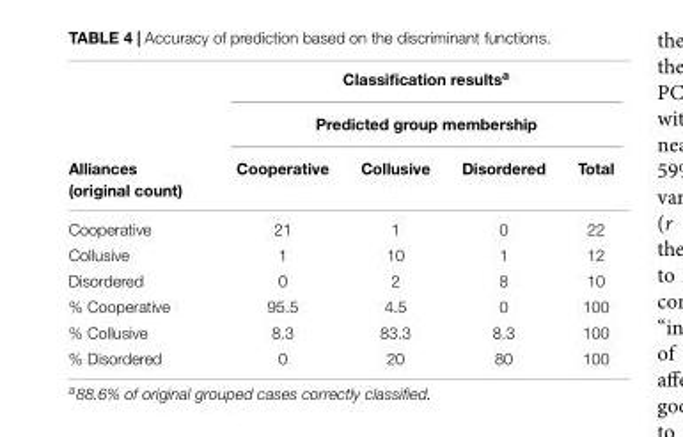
<table><thead><tr><td rowspan="3">Alliances (original count)</td><td rowspan="2" colspan="4">Classification results<sup>a</sup> Predicted group membership</td></tr><tr></tr><tr><td>Cooperative</td><td>Collusive</td><td>Disordered</td><td>Total</td></tr></thead><tbody><tr><td>Cooperative</td><td>21</td><td>1</td><td>0</td><td>22</td></tr><tr><td>Collusive</td><td>1</td><td>10</td><td>1</td><td>12</td></tr><tr><td>Disordered</td><td>0</td><td>2</td><td>8</td><td>10</td></tr><tr><td>% Cooperative</td><td>95.5</td><td>4.5</td><td>0</td><td>100</td></tr><tr><td>% Collusive</td><td>8.3</td><td>83.3</td><td>8.3</td><td>100</td></tr><tr><td>% Disordered</td><td>0</td><td>20</td><td>80</td><td>100</td></tr></tbody></table>